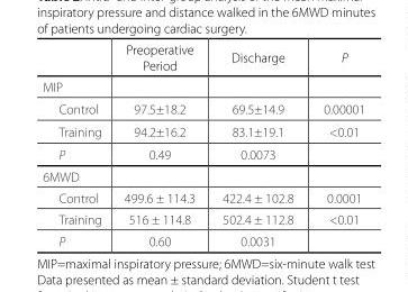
<table><thead><tr><td></td><td>Preoperative Period</td><td>Discharge</td><td>P</td></tr></thead><tbody><tr><td colspan="4">MIP</td></tr><tr><td>Control</td><td>97.5±18.2</td><td>69.5±14.9</td><td>0.00001</td></tr><tr><td>Training</td><td>94.2±16.2</td><td>83.1±19.1</td><td>&lt;0.01</td></tr><tr><td>P</td><td>0.49</td><td>0.0073</td><td></td></tr><tr><td colspan="4">6MWD</td></tr><tr><td>Control</td><td>499.6 ± 114.3</td><td>422.4 ± 102.8</td><td>0.0001</td></tr><tr><td>Training</td><td>516 ± 114.8</td><td>502.4 ± 112.8</td><td>&lt;0.01</td></tr><tr><td>P</td><td>0.60</td><td>0.0031</td><td></td></tr></tbody></table>